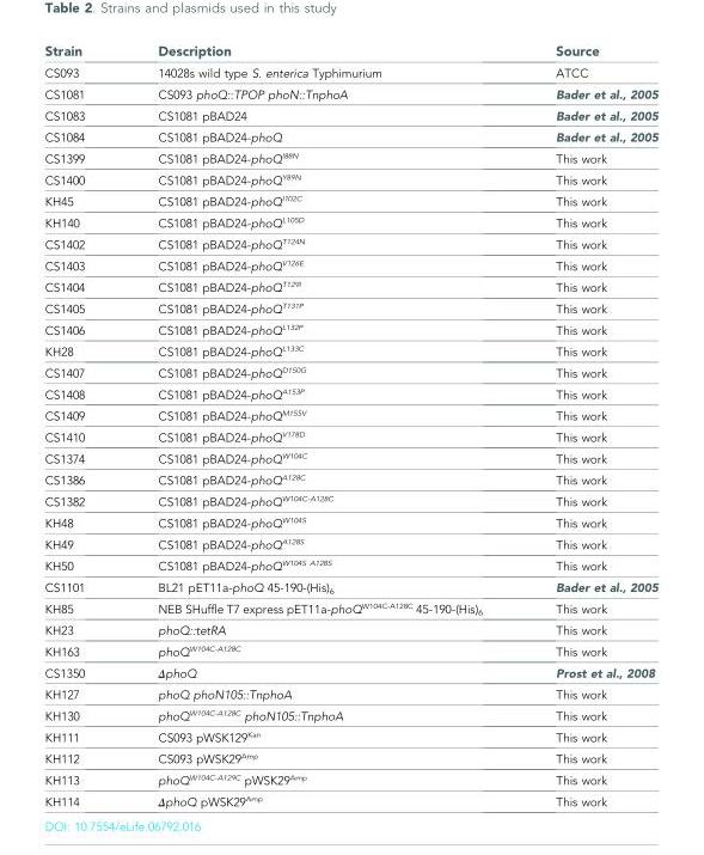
<table><thead><tr><td>Strain</td><td>Description</td><td>Source</td></tr></thead><tbody><tr><td>CS093</td><td>14028s wild type S. enterica Typhimurium</td><td>ATCC</td></tr><tr><td>CS1081</td><td>CS093 phoQ::TPOP phoN::TnphoA</td><td>Bader et al., 2005</td></tr><tr><td>CS1083</td><td>CS1081 pBAD24</td><td>Bader et al., 2005</td></tr><tr><td>CS1084</td><td>CS1081 pBAD24-phoQ</td><td>Bader et al., 2005</td></tr><tr><td>CS1399</td><td>CS1081 pBAD24-phoQ<sup>I88N</sup></td><td>This work</td></tr><tr><td>CS1400</td><td>CS1081 pBAD24-phoQ<sup>Y89N</sup></td><td>This work</td></tr><tr><td>KH45</td><td>CS1081 pBAD24-phoQ<sup>I102C</sup></td><td>This work</td></tr><tr><td>KH140</td><td>CS1081 pBAD24-phoQ<sup>L105D</sup></td><td>This work</td></tr><tr><td>CS1402</td><td>CS1081 pBAD24-phoQ<sup>T124N</sup></td><td>This work</td></tr><tr><td>CS1403</td><td>CS1081 pBAD24-phoQ<sup>V126E</sup></td><td>This work</td></tr><tr><td>CS1404</td><td>CS1081 pBAD24-phoQ<sup>T129I</sup></td><td>This work</td></tr><tr><td>CS1405</td><td>CS1081 pBAD24-phoQ<sup>T131P</sup></td><td>This work</td></tr><tr><td>CS1406</td><td>CS1081 pBAD24-phoQ<sup>L132P</sup></td><td>This work</td></tr><tr><td>KH28</td><td>CS1081 pBAD24-phoQ<sup>L133C</sup></td><td>This work</td></tr><tr><td>CS1407</td><td>CS1081 pBAD24-phoQ<sup>D150G</sup></td><td>This work</td></tr><tr><td>CS1408</td><td>CS1081 pBAD24-phoQ<sup>A153P</sup></td><td>This work</td></tr><tr><td>CS1409</td><td>CS1081 pBAD24-phoQ<sup>M155V</sup></td><td>This work</td></tr><tr><td>CS1410</td><td>CS1081 pBAD24-phoQ<sup>V178D</sup></td><td>This work</td></tr><tr><td>CS1374</td><td>CS1081 pBAD24-phoQ<sup>W104C</sup></td><td>This work</td></tr><tr><td>CS1386</td><td>CS1081 pBAD24-phoQ<sup>A128C</sup></td><td>This work</td></tr><tr><td>CS1382</td><td>CS1081 pBAD24-phoQ<sup>W104C-A128C</sup></td><td>This work</td></tr><tr><td>KH48</td><td>CS1081 pBAD24-phoQ<sup>W104S</sup></td><td>This work</td></tr><tr><td>KH49</td><td>CS1081 pBAD24-phoQ<sup>A128S</sup></td><td>This work</td></tr><tr><td>KH50</td><td>CS1081 pBAD24-phoQ<sup>W104S A128S</sup></td><td>This work</td></tr><tr><td>CS1101</td><td>BL21 pET11a-phoQ 45-190-(His)<sub>6</sub></td><td>Bader et al., 2005</td></tr><tr><td>KH85</td><td>NEB SHuffle T7 express pET11a-phoQ<sup>W104C-A128C</sup> 45-190-(His)<sub>6</sub></td><td>This work</td></tr><tr><td>KH23</td><td>phoQ::tetRA</td><td>This work</td></tr><tr><td>KH163</td><td>phoQ<sup>W104C-A128C</sup></td><td>This work</td></tr><tr><td>CS1350</td><td>ΔphoQ</td><td>Prost et al., 2008</td></tr><tr><td>KH127</td><td>phoQ phoN105::TnphoA</td><td>This work</td></tr><tr><td>KH130</td><td>phoQ<sup>W104C-A128C</sup> phoN105::TnphoA</td><td>This work</td></tr><tr><td>KH111</td><td>CS093 pWSK129<sup>Kan</sup></td><td>This work</td></tr><tr><td>KH112</td><td>CS093 pWSK29<sup>Amp</sup></td><td>This work</td></tr><tr><td>KH113</td><td>phoQ<sup>W104C-A129C</sup> pWSK29<sup>Amp</sup></td><td>This work</td></tr><tr><td>KH114</td><td>ΔphoQ pWSK29<sup>Amp</sup></td><td>This work</td></tr></tbody></table>